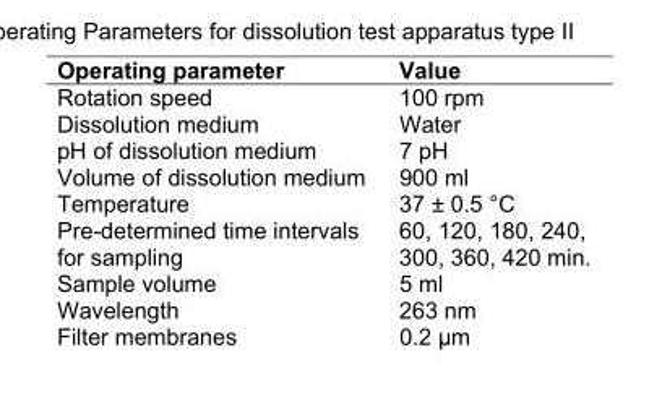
<table><thead><tr><td>Operating parameter</td><td>Value</td></tr></thead><tbody><tr><td>Rotation speed</td><td>100 rpm</td></tr><tr><td>Dissolution medium</td><td>Water</td></tr><tr><td>pH of dissolution medium</td><td>7 pH</td></tr><tr><td>Volume of dissolution medium</td><td>900 ml</td></tr><tr><td>Temperature</td><td>37 ± 0.5 °C</td></tr><tr><td>Pre-determined time intervals for sampling</td><td>60, 120, 180, 240, 300, 360, 420 min.</td></tr><tr><td>Sample volume</td><td>5 ml</td></tr><tr><td>Wavelength</td><td>263 nm</td></tr><tr><td>Filter membranes</td><td>0.2 μm</td></tr></tbody></table>